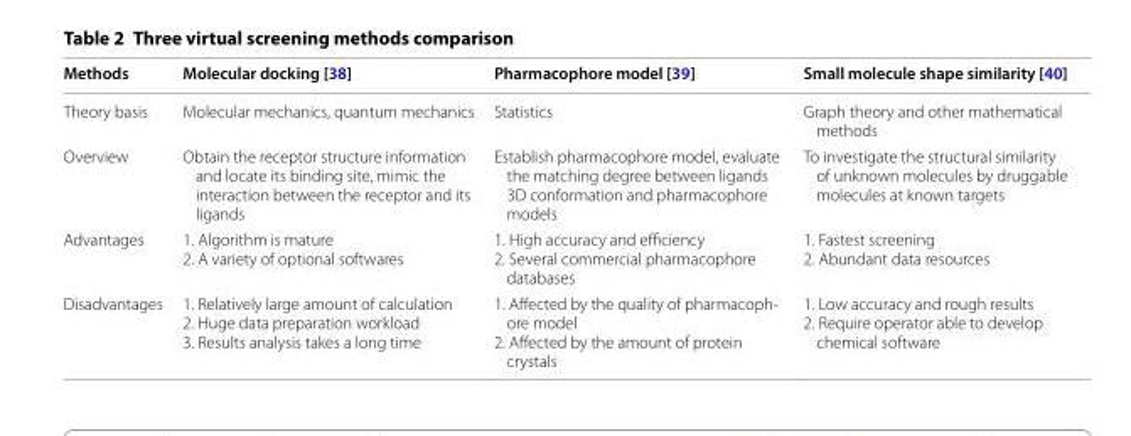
<table><thead><tr><td>Methods</td><td>Molecular docking [38]</td><td>Pharmacophore model [39]</td><td>Small molecule shape similarity [40]</td></tr></thead><tbody><tr><td>Theory basis</td><td>Molecular mechanics, quantum mechanics</td><td>Statistics</td><td>Graph theory and other mathematical methods</td></tr><tr><td>Overview</td><td>Obtain the receptor structure information and locate its binding site, mimic the interaction between the receptor and its ligands</td><td>Establish pharmacophore model, evaluate the matching degree between ligands 3D conformation and pharmacophore models</td><td>To investigate the structural similarity of unknown molecules by druggable molecules at known targets</td></tr><tr><td>Advantages</td><td>1. Algorithm is mature 2. A variety of optional softwares</td><td>1. High accuracy and efficiency 2. Several commercial pharmacophore databases</td><td>1. Fastest screening 2. Abundant data resources</td></tr><tr><td>Disadvantages</td><td>1. Relatively large amount of calculation 2. Huge data preparation workload 3. Results analysis takes a long time</td><td>1. Affected by the quality of pharmacoph‑ ore model 2. Affected by the amount of protein crystals</td><td>1. Low accuracy and rough results 2. Require operator able to develop chemical software</td></tr></tbody></table>